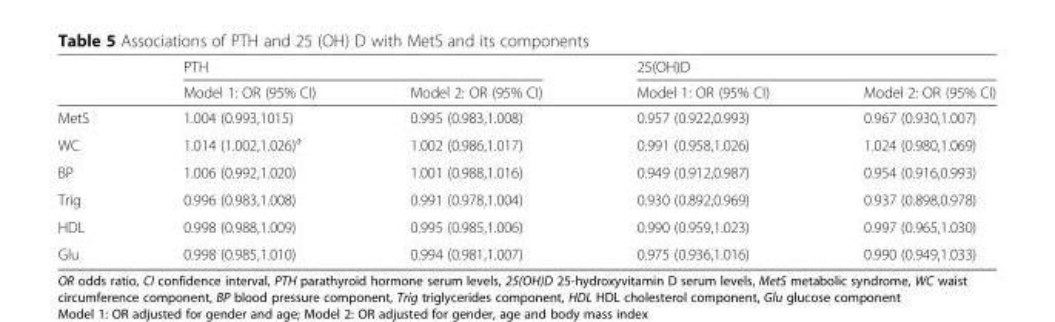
<table><thead><tr><td rowspan="2"></td><td colspan="2">PTH</td><td colspan="2">25(OH)D</td></tr><tr><td>Model 1: OR (95% CI)</td><td>Model 2: OR (95% CI)</td><td>Model 1: OR (95% CI)</td><td>Model 2: OR (95% CI)</td></tr></thead><tbody><tr><td>MetS</td><td>1.004 (0.993,1015)</td><td>0.995 (0.983,1.008)</td><td>0.957 (0.922,0.993)</td><td>0.967 (0.930,1.007)</td></tr><tr><td>WC</td><td>1.014 (1.002,1.026)<sup>a</sup></td><td>1.002 (0.986,1.017)</td><td>0.991 (0.958,1.026)</td><td>1.024 (0.980,1.069)</td></tr><tr><td>BP</td><td>1.006 (0.992,1.020)</td><td>1.001 (0.988,1.016)</td><td>0.949 (0.912,0.987)</td><td>0.954 (0.916,0.993)</td></tr><tr><td>Trig</td><td>0.996 (0.983,1.008)</td><td>0.991 (0.978,1.004)</td><td>0.930 (0.892,0.969)</td><td>0.937 (0.898,0.978)</td></tr><tr><td>HDL</td><td>0.998 (0.988,1.009)</td><td>0.995 (0.985,1.006)</td><td>0.990 (0.959,1.023)</td><td>0.997 (0.965,1.030)</td></tr><tr><td>Glu</td><td>0.998 (0.985,1.010)</td><td>0.994 (0.981,1.007)</td><td>0.975 (0.936,1.016)</td><td>0.990 (0.949,1.033)</td></tr></tbody></table>